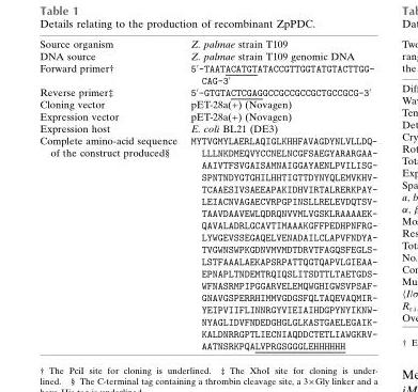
<table><tbody><tr><td>Source organism</td><td>Z. palmae strain T109</td></tr><tr><td>DNA source</td><td>Z. palmae strain T109 genomic DNA</td></tr><tr><td>Forward primer†</td><td>50-TAATACATGTATACCGTTGGTATGTACTTGG- CAG-30</td></tr><tr><td>Reverse primer‡</td><td>5′-GTGTACTCGAGGCCGCCGCCGCTGCCGCG-3′</td></tr><tr><td>Cloning vector</td><td>pET-28a(+) (Novagen)</td></tr><tr><td>Expression vector</td><td>pET-28a(+) (Novagen)</td></tr><tr><td>Expression host</td><td>E. coli BL21 (DE3)</td></tr><tr><td>Complete amino-acid sequence of the construct produced§</td><td>MYTVGMYLAERLAQIGLKHHFAVAGDYNLVLLDQ- LLLNKDMEQVYCCNELNCGFSAEGYARARGAA- AAIVTFSVGAISAMNAIGGAYAENLPVILISG- SPNTNDYGTGHILHHTIGTTDYNYQLEMVKHV- TCAAESIVSAEEAPAKIDHVIRTALRERKPAY- LEIACNVAGAECVRPGPINSLLRELEVDQTSV- TAAVDAAVEWLQDRQNVVMLVGSKLRAAAAEK- QAVALADRLGCAVTIMAAAKGFFPEDHPNFRG- LYWGEVSSEGAQELVENADAILCLAPVFNDYA- TVGWNSWPKGDNVMVMDTDRVTFAGQSFEGLS- LSTFAAALAEKAPSRPATTQGTQAPVLGIEAA- EPNAPLTNDEMTRQIQSLITSDTTLTAETGDS- WFNASRMPIPGGARVELEMQWGHIGWSVPSAF- GNAVGSPERRHIMMVGDGSFQLTAQEVAQMIR- YEIPVIIFLINNRGYVIEIAIHDGPYNYIKNW- NYAGLIDVFNDEDGHGLGLKASTGAELEGAIK- KALDNRRGPTLIECNIAQDDCTETLIAWGKRV- AATNSRKPQALVPRGSGGGLEHHHHHH</td></tr></tbody></table>